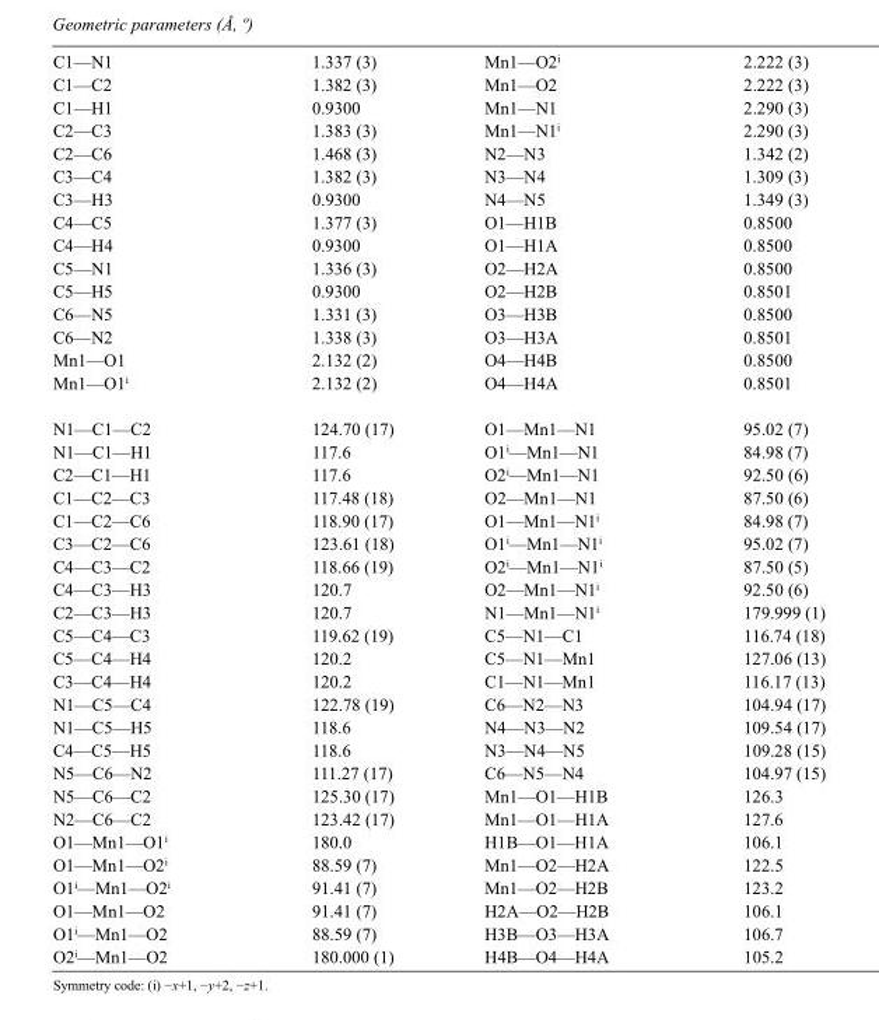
<table><tbody><tr><td>C1—N1</td><td>1.337 (3)</td><td>Mn1—O2<sup>i</sup></td><td>2.222 (3)</td></tr><tr><td>C1—C2</td><td>1.382 (3)</td><td>Mn1—O2</td><td>2.222 (3)</td></tr><tr><td>C1—H1</td><td>0.9300</td><td>Mn1—N1</td><td>2.290 (3)</td></tr><tr><td>C2—C3</td><td>1.383 (3)</td><td>Mn1—N1<sup>i</sup></td><td>2.290 (3)</td></tr><tr><td>C2—C6</td><td>1.468 (3)</td><td>N2—N3</td><td>1.342 (2)</td></tr><tr><td>C3—C4</td><td>1.382 (3)</td><td>N3—N4</td><td>1.309 (3)</td></tr><tr><td>C3—H3</td><td>0.9300</td><td>N4—N5</td><td>1.349 (3)</td></tr><tr><td>C4—C5</td><td>1.377 (3)</td><td>O1—H1B</td><td>0.8500</td></tr><tr><td>C4—H4</td><td>0.9300</td><td>O1—H1A</td><td>0.8500</td></tr><tr><td>C5—N1</td><td>1.336 (3)</td><td>O2—H2A</td><td>0.8500</td></tr><tr><td>C5—H5</td><td>0.9300</td><td>O2—H2B</td><td>0.8501</td></tr><tr><td>C6—N5</td><td>1.331 (3)</td><td>O3—H3B</td><td>0.8500</td></tr><tr><td>C6—N2</td><td>1.338 (3)</td><td>O3—H3A</td><td>0.8501</td></tr><tr><td>Mn1—O1</td><td>2.132 (2)</td><td>O4—H4B</td><td>0.8500</td></tr><tr><td>Mn1—O1<sup>i</sup></td><td>2.132 (2)</td><td>O4—H4A</td><td>0.8501</td></tr><tr><td>N1—C1—C2</td><td>124.70 (17)</td><td>O1—Mn1—N1</td><td>95.02 (7)</td></tr><tr><td>N1—C1—H1</td><td>117.6</td><td>O1<sup>i</sup>—Mn1—N1</td><td>84.98 (7)</td></tr><tr><td>C2—C1—H1</td><td>117.6</td><td>O2<sup>i</sup>—Mn1—N1</td><td>92.50 (6)</td></tr><tr><td>C1—C2—C3</td><td>117.48 (18)</td><td>O2—Mn1—N1</td><td>87.50 (6)</td></tr><tr><td>C1—C2—C6</td><td>118.90 (17)</td><td>O1—Mn1—N1<sup>i</sup></td><td>84.98 (7)</td></tr><tr><td>C3—C2—C6</td><td>123.61 (18)</td><td>O1<sup>i</sup>—Mn1—N1<sup>i</sup></td><td>95.02 (7)</td></tr><tr><td>C4—C3—C2</td><td>118.66 (19)</td><td>O2<sup>i</sup>—Mn1—N1<sup>i</sup></td><td>87.50 (5)</td></tr><tr><td>C4—C3—H3</td><td>120.7</td><td>O2—Mn1—N1<sup>i</sup></td><td>92.50 (6)</td></tr><tr><td>C2—C3—H3</td><td>120.7</td><td>N1—Mn1—N1<sup>i</sup></td><td>179.999 (1)</td></tr><tr><td>C5—C4—C3</td><td>119.62 (19)</td><td>C5—N1—C1</td><td>116.74 (18)</td></tr><tr><td>C5—C4—H4</td><td>120.2</td><td>C5—N1—Mn1</td><td>127.06 (13)</td></tr><tr><td>C3—C4—H4</td><td>120.2</td><td>C1—N1—Mn1</td><td>116.17 (13)</td></tr><tr><td>N1—C5—C4</td><td>122.78 (19)</td><td>C6—N2—N3</td><td>104.94 (17)</td></tr><tr><td>N1—C5—H5</td><td>118.6</td><td>N4—N3—N2</td><td>109.54 (17)</td></tr><tr><td>C4—C5—H5</td><td>118.6</td><td>N3—N4—N5</td><td>109.28 (15)</td></tr><tr><td>N5—C6—N2</td><td>111.27 (17)</td><td>C6—N5—N4</td><td>104.97 (15)</td></tr><tr><td>N5—C6—C2</td><td>125.30 (17)</td><td>Mn1—O1—H1B</td><td>126.3</td></tr><tr><td>N2—C6—C2</td><td>123.42 (17)</td><td>Mn1—O1—H1A</td><td>127.6</td></tr><tr><td>O1—Mn1—O1<sup>i</sup></td><td>180.0</td><td>H1B—O1—H1A</td><td>106.1</td></tr><tr><td>O1—Mn1—O2<sup>i</sup></td><td>88.59 (7)</td><td>Mn1—O2—H2A</td><td>122.5</td></tr><tr><td>O1<sup>i</sup>—Mn1—O2<sup>i</sup></td><td>91.41 (7)</td><td>Mn1—O2—H2B</td><td>123.2</td></tr><tr><td>O1—Mn1—O2</td><td>91.41 (7)</td><td>H2A—O2—H2B</td><td>106.1</td></tr><tr><td>O1<sup>i</sup>—Mn1—O2</td><td>88.59 (7)</td><td>H3B—O3—H3A</td><td>106.7</td></tr><tr><td>O2<sup>i</sup>—Mn1—O2</td><td>180.000 (1)</td><td>H4B—O4—H4A</td><td>105.2</td></tr></tbody></table>